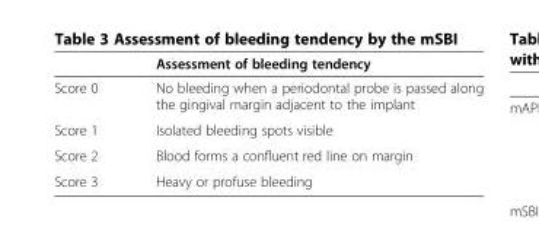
<table><thead><tr><td></td><td>Assessment of bleeding tendency</td></tr></thead><tbody><tr><td>Score 0</td><td>No bleeding when a periodontal probe is passed along the gingival margin adjacent to the implant</td></tr><tr><td>Score 1</td><td>Isolated bleeding spots visible</td></tr><tr><td>Score 2</td><td>Blood forms a confluent red line on margin</td></tr><tr><td>Score 3</td><td>Heavy or profuse bleeding</td></tr></tbody></table>